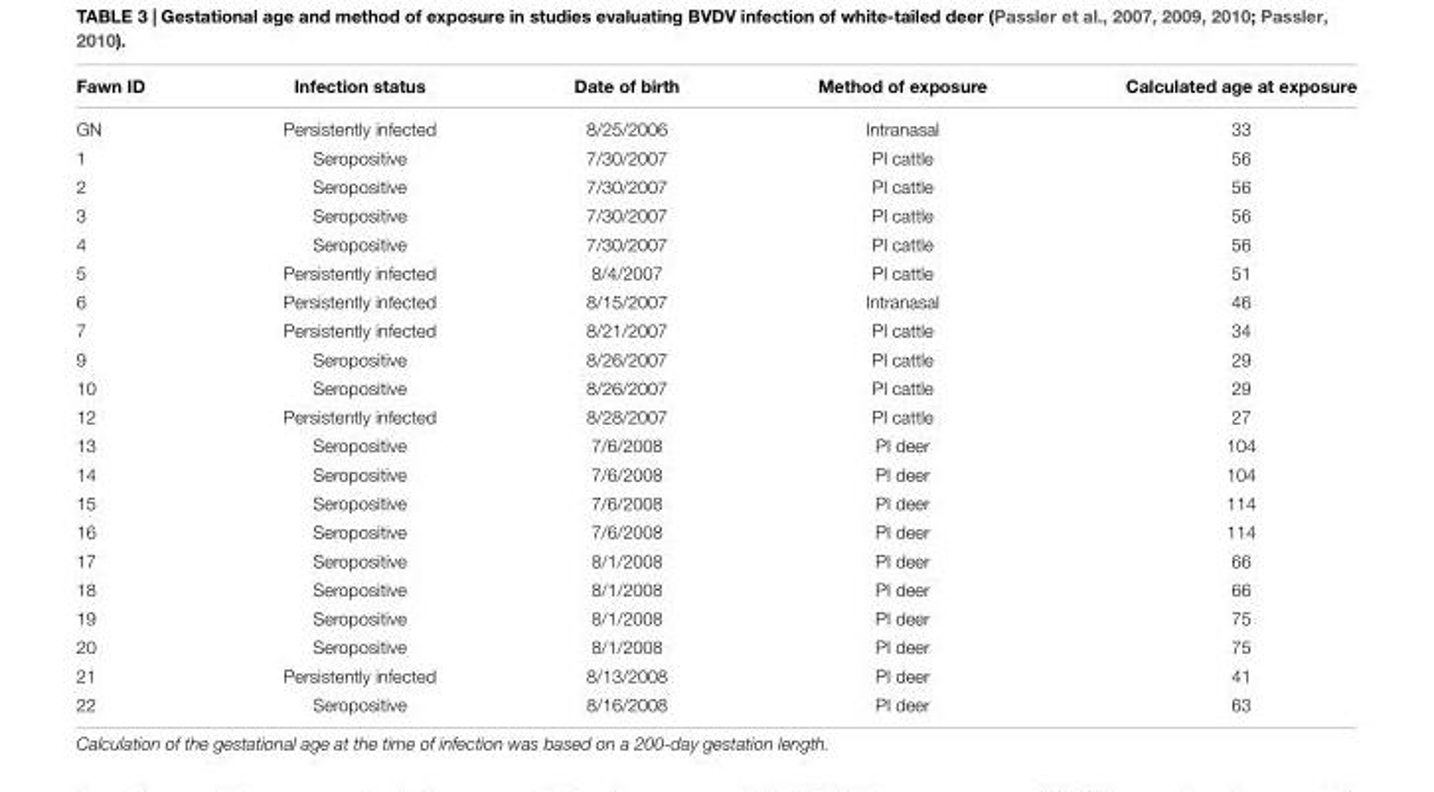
<table><thead><tr><td>Fawn ID</td><td>Infection status</td><td>Date of birth</td><td>Method of exposure</td><td>Calculated age at exposure</td></tr></thead><tbody><tr><td>GN</td><td>Persistently infected</td><td>8/25/2006</td><td>Intranasal</td><td>33</td></tr><tr><td>1</td><td>Seropositive</td><td>7/30/2007</td><td>PI cattle</td><td>56</td></tr><tr><td>2</td><td>Seropositive</td><td>7/30/2007</td><td>PI cattle</td><td>56</td></tr><tr><td>3</td><td>Seropositive</td><td>7/30/2007</td><td>PI cattle</td><td>56</td></tr><tr><td>4</td><td>Seropositive</td><td>7/30/2007</td><td>PI cattle</td><td>56</td></tr><tr><td>5</td><td>Persistently infected</td><td>8/4/2007</td><td>PI cattle</td><td>51</td></tr><tr><td>6</td><td>Persistently infected</td><td>8/15/2007</td><td>Intranasal</td><td>46</td></tr><tr><td>7</td><td>Persistently infected</td><td>8/21/2007</td><td>PI cattle</td><td>34</td></tr><tr><td>9</td><td>Seropositive</td><td>8/26/2007</td><td>PI cattle</td><td>29</td></tr><tr><td>10</td><td>Seropositive</td><td>8/26/2007</td><td>PI cattle</td><td>29</td></tr><tr><td>12</td><td>Persistently infected</td><td>8/28/2007</td><td>PI cattle</td><td>27</td></tr><tr><td>13</td><td>Seropositive</td><td>7/6/2008</td><td>PI deer</td><td>104</td></tr><tr><td>14</td><td>Seropositive</td><td>7/6/2008</td><td>PI deer</td><td>104</td></tr><tr><td>15</td><td>Seropositive</td><td>7/6/2008</td><td>PI deer</td><td>114</td></tr><tr><td>16</td><td>Seropositive</td><td>7/6/2008</td><td>PI deer</td><td>114</td></tr><tr><td>17</td><td>Seropositive</td><td>8/1/2008</td><td>PI deer</td><td>66</td></tr><tr><td>18</td><td>Seropositive</td><td>8/1/2008</td><td>PI deer</td><td>66</td></tr><tr><td>19</td><td>Seropositive</td><td>8/1/2008</td><td>PI deer</td><td>75</td></tr><tr><td>20</td><td>Seropositive</td><td>8/1/2008</td><td>PI deer</td><td>75</td></tr><tr><td>21</td><td>Persistently infected</td><td>8/13/2008</td><td>PI deer</td><td>41</td></tr><tr><td>22</td><td>Seropositive</td><td>8/16/2008</td><td>PI deer</td><td>63</td></tr></tbody></table>